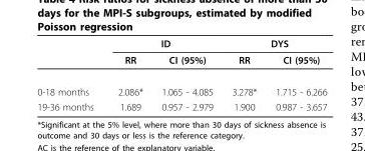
<table><thead><tr><td rowspan="2"></td><td colspan="2">ID</td><td colspan="2">DYS</td></tr><tr><td>RR</td><td>CI (95%)</td><td>RR</td><td>CI (95%)</td></tr></thead><tbody><tr><td>0-18 months</td><td>2.086*</td><td>1.065 - 4.085</td><td>3.278*</td><td>1.715 - 6.266</td></tr><tr><td>19-36 months</td><td>1.689</td><td>0.957 - 2.979</td><td>1.900</td><td>0.987 - 3.657</td></tr></tbody></table>